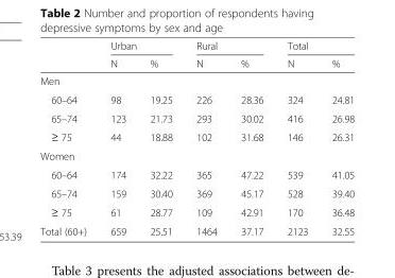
<table><thead><tr><td rowspan="2"></td><td colspan="2">Urban</td><td colspan="2">Rural</td><td colspan="2">Total</td></tr><tr><td>N</td><td>%</td><td>N</td><td>%</td><td>N</td><td>%</td></tr></thead><tbody><tr><td colspan="7">Men</td></tr><tr><td>60–64</td><td>98</td><td>19.25</td><td>226</td><td>28.36</td><td>324</td><td>24.81</td></tr><tr><td>65–74</td><td>123</td><td>21.73</td><td>293</td><td>30.02</td><td>416</td><td>26.98</td></tr><tr><td>≥ 75</td><td>44</td><td>18.88</td><td>102</td><td>31.68</td><td>146</td><td>26.31</td></tr><tr><td colspan="7">Women</td></tr><tr><td>60–64</td><td>174</td><td>32.22</td><td>365</td><td>47.22</td><td>539</td><td>41.05</td></tr><tr><td>65–74</td><td>159</td><td>30.40</td><td>369</td><td>45.17</td><td>528</td><td>39.40</td></tr><tr><td>≥ 75</td><td>61</td><td>28.77</td><td>109</td><td>42.91</td><td>170</td><td>36.48</td></tr><tr><td>Total (60+)</td><td>659</td><td>25.51</td><td>1464</td><td>37.17</td><td>2123</td><td>32.55</td></tr></tbody></table>